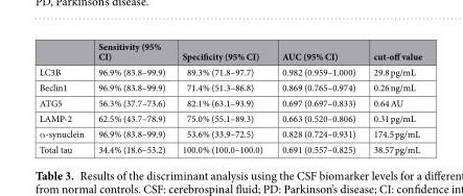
<table><thead><tr><td></td><td>Sensitivity (95% CI)</td><td>Specificity (95% CI)</td><td>AUC (95% CI)</td><td>cut-off value</td></tr></thead><tbody><tr><td>LC3B</td><td>96.9% (83.8–99.9)</td><td>89.3% (71.8–97.7)</td><td>0.982 (0.959–1.000)</td><td>29.8 pg/mL</td></tr><tr><td>Beclin1</td><td>96.9% (83.8–99.9)</td><td>71.4% (51.3–86.8)</td><td>0.869 (0.765–0.974)</td><td>0.26 ng/mL</td></tr><tr><td>ATG5</td><td>56.3% (37.7–73.6)</td><td>82.1% (63.1–93.9)</td><td>0.697 (0.697–0.833)</td><td>0.64 AU</td></tr><tr><td>LAMP-2</td><td>62.5% (43.7–78.9)</td><td>75.0% (55.1–89.3)</td><td>0.663 (0.520–0.806)</td><td>0.31 pg/mL</td></tr><tr><td>α-synuclein</td><td>96.9% (83.8–99.9)</td><td>53.6% (33.9–72.5)</td><td>0.828 (0.724–0.931)</td><td>174.5 pg/mL</td></tr><tr><td>Total tau</td><td>34.4% (18.6–53.2)</td><td>100.0% (100.0–100.0)</td><td>0.691 (0.557–0.825)</td><td>38.57 pg/mL</td></tr></tbody></table>